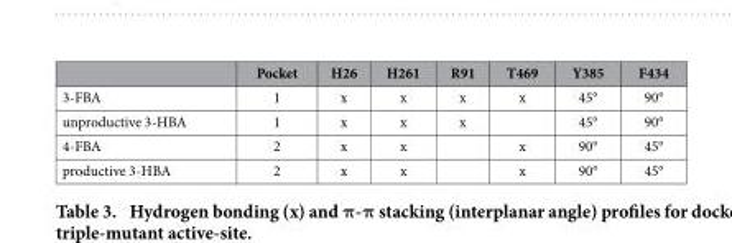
<table><thead><tr><td></td><td>Pocket</td><td>H26</td><td>H261</td><td>R91</td><td>T469</td><td>Y385</td><td>F434</td></tr></thead><tbody><tr><td>3-FBA</td><td>1</td><td>x</td><td>x</td><td>x</td><td>x</td><td>45°</td><td>90°</td></tr><tr><td>unproductive 3-HBA</td><td>1</td><td>x</td><td>x</td><td>x</td><td></td><td>45°</td><td>90°</td></tr><tr><td>4-FBA</td><td>2</td><td>x</td><td>x</td><td></td><td>x</td><td>90°</td><td>45°</td></tr><tr><td>productive 3-HBA</td><td>2</td><td>x</td><td>x</td><td></td><td>x</td><td>90°</td><td>45°</td></tr></tbody></table>